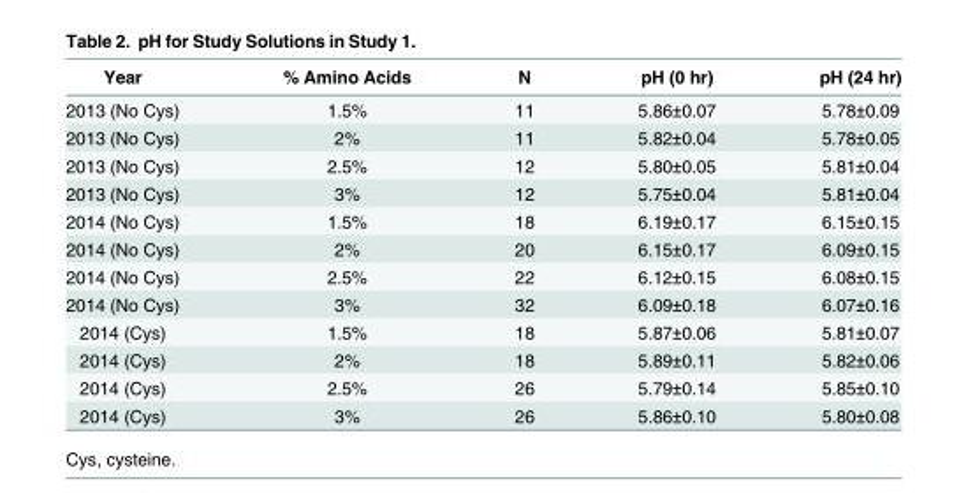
<table><thead><tr><td>Year</td><td>% Amino Acids</td><td>N</td><td>pH (0 hr)</td><td>pH (24 hr)</td></tr></thead><tbody><tr><td>2013 (No Cys)</td><td>1.5%</td><td>11</td><td>5.86±0.07</td><td>5.78±0.09</td></tr><tr><td>2013 (No Cys)</td><td>2%</td><td>11</td><td>5.82±0.04</td><td>5.78±0.05</td></tr><tr><td>2013 (No Cys)</td><td>2.5%</td><td>12</td><td>5.80±0.05</td><td>5.81±0.04</td></tr><tr><td>2013 (No Cys)</td><td>3%</td><td>12</td><td>5.75±0.04</td><td>5.81±0.04</td></tr><tr><td>2014 (No Cys)</td><td>1.5%</td><td>18</td><td>6.19±0.17</td><td>6.15±0.15</td></tr><tr><td>2014 (No Cys)</td><td>2%</td><td>20</td><td>6.15±0.17</td><td>6.09±0.15</td></tr><tr><td>2014 (No Cys)</td><td>2.5%</td><td>22</td><td>6.12±0.15</td><td>6.08±0.15</td></tr><tr><td>2014 (No Cys)</td><td>3%</td><td>32</td><td>6.09±0.18</td><td>6.07±0.16</td></tr><tr><td>2014 (Cys)</td><td>1.5%</td><td>18</td><td>5.87±0.06</td><td>5.81±0.07</td></tr><tr><td>2014 (Cys)</td><td>2%</td><td>18</td><td>5.89±0.11</td><td>5.82±0.06</td></tr><tr><td>2014 (Cys)</td><td>2.5%</td><td>26</td><td>5.79±0.14</td><td>5.85±0.10</td></tr><tr><td>2014 (Cys)</td><td>3%</td><td>26</td><td>5.86±0.10</td><td>5.80±0.08</td></tr></tbody></table>